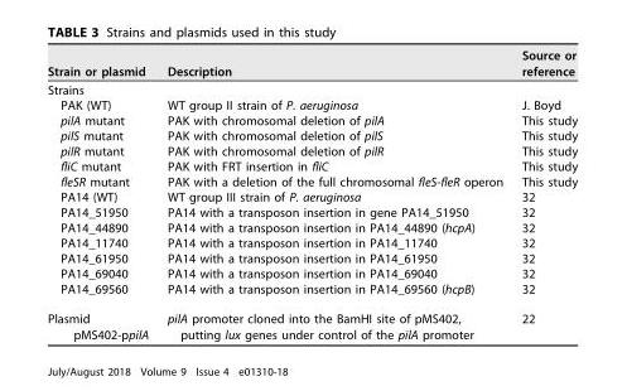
<table><thead><tr><td>Strain or plasmid</td><td>Description</td><td>Source or reference</td></tr></thead><tbody><tr><td colspan="3">Strains</td></tr><tr><td>PAK (WT)</td><td>WT group II strain of P. aeruginosa</td><td>J. Boyd</td></tr><tr><td>pilA mutant</td><td>PAK with chromosomal deletion of pilA</td><td>This study</td></tr><tr><td>pilS mutant</td><td>PAK with chromosomal deletion of pilS</td><td>This study</td></tr><tr><td>pilR mutant</td><td>PAK with chromosomal deletion of pilR</td><td>This study</td></tr><tr><td>fliC mutant</td><td>PAK with FRT insertion in fliC</td><td>This study</td></tr><tr><td>fleSR mutant</td><td>PAK with a deletion of the full chromosomal fleS-fleR operon</td><td>This study</td></tr><tr><td>PA14 (WT)</td><td>WT group III strain of P. aeruginosa</td><td>32</td></tr><tr><td>PA14_51950</td><td>PA14 with a transposon insertion in gene PA14_51950</td><td>32</td></tr><tr><td>PA14_44890</td><td>PA14 with a transposon insertion in PA14_44890 (hcpA)</td><td>32</td></tr><tr><td>PA14_11740</td><td>PA14 with a transposon insertion in PA14_11740</td><td>32</td></tr><tr><td>PA14_61950</td><td>PA14 with a transposon insertion in PA14_61950</td><td>32</td></tr><tr><td>PA14_69040</td><td>PA14 with a transposon insertion in PA14_69040</td><td>32</td></tr><tr><td>PA14_69560</td><td>PA14 with a transposon insertion in PA14_69560 (hcpB)</td><td>32</td></tr><tr><td>Plasmid pMS402-ppilA</td><td>pilA promoter cloned into the BamHI site of pMS402, putting lux genes under control of the pilA promoter</td><td>22</td></tr></tbody></table>